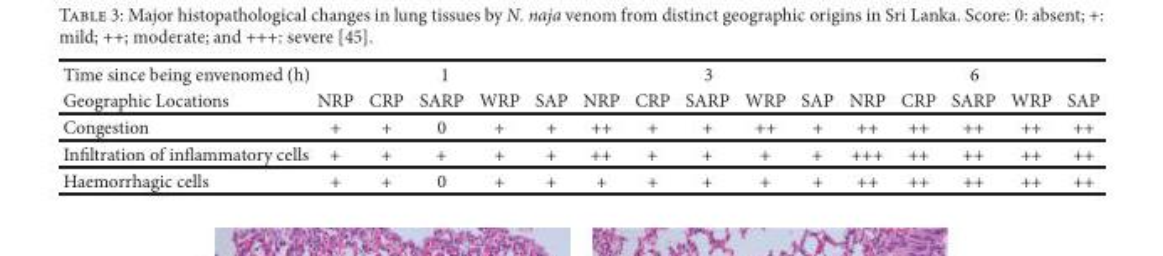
<table><thead><tr><td rowspan="2">Time since being envenomed (h) Geographic Locations</td><td colspan="5">1</td><td colspan="5">3</td><td colspan="5">6</td></tr><tr><td>NRP</td><td>CRP</td><td>SARP</td><td>WRP</td><td>SAP</td><td>NRP</td><td>CRP</td><td>SARP</td><td>WRP</td><td>SAP</td><td>NRP</td><td>CRP</td><td>SARP</td><td>WRP</td><td>SAP</td></tr></thead><tbody><tr><td>Congestion</td><td>+</td><td>+</td><td>0</td><td>+</td><td>+</td><td>++</td><td>+</td><td>+</td><td>++</td><td>+</td><td>++</td><td>++</td><td>++</td><td>++</td><td>++</td></tr><tr><td>Infiltration of inflammatory cells</td><td>+</td><td>+</td><td>+</td><td>+</td><td>+</td><td>++</td><td>+</td><td>+</td><td>+</td><td>+</td><td>+++</td><td>++</td><td>++</td><td>++</td><td>++</td></tr><tr><td>Haemorrhagic cells</td><td>+</td><td>+</td><td>0</td><td>+</td><td>+</td><td>+</td><td>+</td><td>+</td><td>+</td><td>+</td><td>++</td><td>++</td><td>++</td><td>++</td><td>++</td></tr></tbody></table>